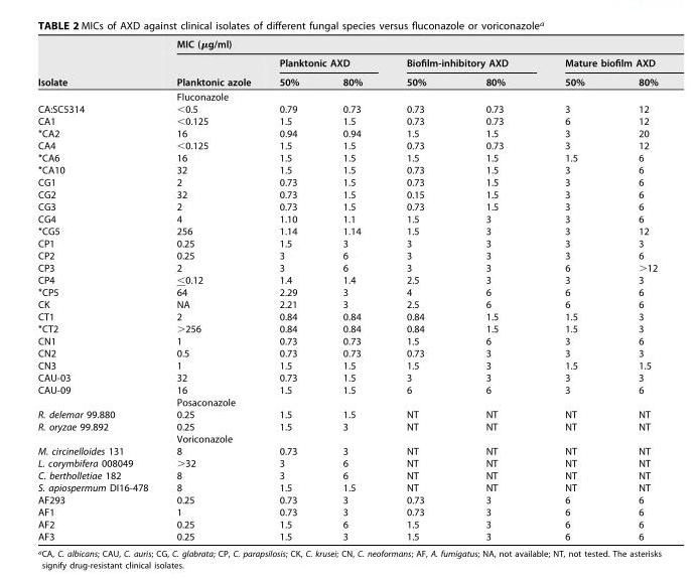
<table><thead><tr><td rowspan="3">Isolate</td><td colspan="7">MIC (μg/ml)</td></tr><tr><td rowspan="2">Planktonic azole</td><td colspan="2">Planktonic AXD</td><td colspan="2">Biofilm-inhibitory AXD</td><td colspan="2">Mature biofilm AXD</td></tr><tr><td>50%</td><td>80%</td><td>50%</td><td>80%</td><td>50%</td><td>80%</td></tr></thead><tbody><tr><td></td><td>Fluconazole</td><td></td><td></td><td></td><td></td><td></td><td></td></tr><tr><td>CA:SC5314</td><td>&lt;0.5</td><td>0.79</td><td>0.73</td><td>0.73</td><td>0.73</td><td>3</td><td>12</td></tr><tr><td>CA1</td><td>&lt;0.125</td><td>1.5</td><td>1.5</td><td>0.73</td><td>0.73</td><td>6</td><td>12</td></tr><tr><td>*CA2</td><td>16</td><td>0.94</td><td>0.94</td><td>1.5</td><td>1.5</td><td>3</td><td>20</td></tr><tr><td>CA4</td><td>&lt;0.125</td><td>1.5</td><td>1.5</td><td>0.73</td><td>0.73</td><td>3</td><td>12</td></tr><tr><td>*CA6</td><td>16</td><td>1.5</td><td>1.5</td><td>1.5</td><td>1.5</td><td>1.5</td><td>6</td></tr><tr><td>*CA10</td><td>32</td><td>1.5</td><td>1.5</td><td>0.73</td><td>1.5</td><td>3</td><td>6</td></tr><tr><td>CG1</td><td>2</td><td>0.73</td><td>1.5</td><td>0.73</td><td>1.5</td><td>3</td><td>6</td></tr><tr><td>CG2</td><td>32</td><td>0.73</td><td>1.5</td><td>0.15</td><td>1.5</td><td>3</td><td>6</td></tr><tr><td>CG3</td><td>2</td><td>0.73</td><td>1.5</td><td>0.73</td><td>1.5</td><td>3</td><td>6</td></tr><tr><td>CG4</td><td>4</td><td>1.10</td><td>1.1</td><td>1.5</td><td>3</td><td>3</td><td>6</td></tr><tr><td>*CG5</td><td>256</td><td>1.14</td><td>1.14</td><td>1.5</td><td>3</td><td>3</td><td>12</td></tr><tr><td>CP1</td><td>0.25</td><td>1.5</td><td>3</td><td>3</td><td>3</td><td>3</td><td>3</td></tr><tr><td>CP2</td><td>0.25</td><td>3</td><td>6</td><td>3</td><td>3</td><td>3</td><td>6</td></tr><tr><td>CP3</td><td>2</td><td>3</td><td>6</td><td>3</td><td>3</td><td>6</td><td>&gt;12</td></tr><tr><td>CP4</td><td>&lt;0.12</td><td>1.4</td><td>1.4</td><td>2.5</td><td>3</td><td>3</td><td>3</td></tr><tr><td>*CP5</td><td>64</td><td>2.29</td><td>3</td><td>4</td><td>6</td><td>6</td><td>6</td></tr><tr><td>CK</td><td>NA</td><td>2.21</td><td>3</td><td>2.5</td><td>6</td><td>6</td><td>6</td></tr><tr><td>CT1</td><td>2</td><td>0.84</td><td>0.84</td><td>0.84</td><td>1.5</td><td>1.5</td><td>3</td></tr><tr><td>*CT2</td><td>&gt;256</td><td>0.84</td><td>0.84</td><td>0.84</td><td>1.5</td><td>1.5</td><td>3</td></tr><tr><td>CN1</td><td>1</td><td>0.73</td><td>0.73</td><td>1.5</td><td>6</td><td>3</td><td>6</td></tr><tr><td>CN2</td><td>0.5</td><td>0.73</td><td>0.73</td><td>0.73</td><td>3</td><td>3</td><td>3</td></tr><tr><td>CN3</td><td>1</td><td>1.5</td><td>1.5</td><td>1.5</td><td>3</td><td>1.5</td><td>1.5</td></tr><tr><td>CAU-03</td><td>32</td><td>0.73</td><td>1.5</td><td>3</td><td>3</td><td>3</td><td>3</td></tr><tr><td rowspan="2">CAU-09</td><td>16</td><td>1.5</td><td>1.5</td><td>6</td><td>6</td><td>3</td><td>6</td></tr><tr><td>Posaconazole</td><td></td><td></td><td></td><td></td><td></td><td></td></tr><tr><td>R. delemar 99.880</td><td>0.25</td><td>1.5</td><td>1.5</td><td>NT</td><td>NT</td><td>NT</td><td>NT</td></tr><tr><td rowspan="2">R. oryzae 99.892</td><td>0.25</td><td>1.5</td><td>3</td><td>NT</td><td>NT</td><td>NT</td><td>NT</td></tr><tr><td>Voriconazole</td><td></td><td></td><td></td><td></td><td></td><td></td></tr><tr><td>M. circinelloides 131</td><td>8</td><td>0.73</td><td>3</td><td>NT</td><td>NT</td><td>NT</td><td>NT</td></tr><tr><td>L. corymbifera 008049</td><td>&gt;32</td><td>3</td><td>6</td><td>NT</td><td>NT</td><td>NT</td><td>NT</td></tr><tr><td>C. bertholletiae 182</td><td>8</td><td>3</td><td>6</td><td>NT</td><td>NT</td><td>NT</td><td>NT</td></tr><tr><td>S. apiospermum DI16-478</td><td>8</td><td>1.5</td><td>1.5</td><td>NT</td><td>NT</td><td>NT</td><td>NT</td></tr><tr><td>AF293</td><td>0.25</td><td>0.73</td><td>3</td><td>0.73</td><td>3</td><td>6</td><td>6</td></tr><tr><td>AF1</td><td>1</td><td>0.73</td><td>3</td><td>0.73</td><td>3</td><td>6</td><td>6</td></tr><tr><td>AF2</td><td>0.25</td><td>1.5</td><td>6</td><td>1.5</td><td>3</td><td>6</td><td>6</td></tr><tr><td>AF3</td><td>0.25</td><td>1.5</td><td>3</td><td>1.5</td><td>3</td><td>6</td><td>6</td></tr></tbody></table>